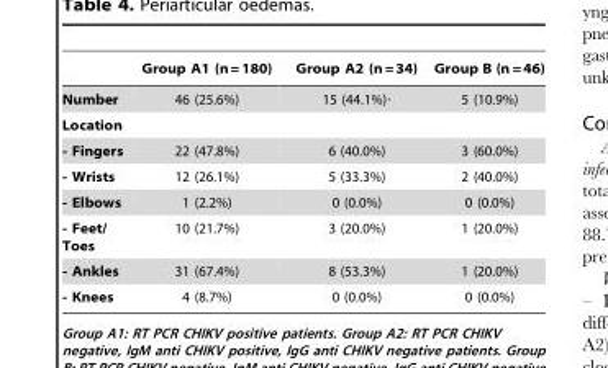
<table><thead><tr><td></td><td>Group A1 (n = 180)</td><td>Group A2 (n = 34)</td><td>Group B (n = 46)</td></tr></thead><tbody><tr><td>Number</td><td>46 (25.6%)</td><td>15 (44.1%)·</td><td>5 (10.9%)</td></tr><tr><td colspan="4">Location</td></tr><tr><td>- Fingers</td><td>22 (47.8%)</td><td>6 (40.0%)</td><td>3 (60.0%)</td></tr><tr><td>- Wrists</td><td>12 (26.1%)</td><td>5 (33.3%)</td><td>2 (40.0%)</td></tr><tr><td>- Elbows</td><td>1 (2.2%)</td><td>0 (0.0%)</td><td>0 (0.0%)</td></tr><tr><td>- Feet/ Toes</td><td>10 (21.7%)</td><td>3 (20.0%)</td><td>1 (20.0%)</td></tr><tr><td>- Ankles</td><td>31 (67.4%)</td><td>8 (53.3%)</td><td>1 (20.0%)</td></tr><tr><td>- Knees</td><td>4 (8.7%)</td><td>0 (0.0%)</td><td>0 (0.0%)</td></tr></tbody></table>